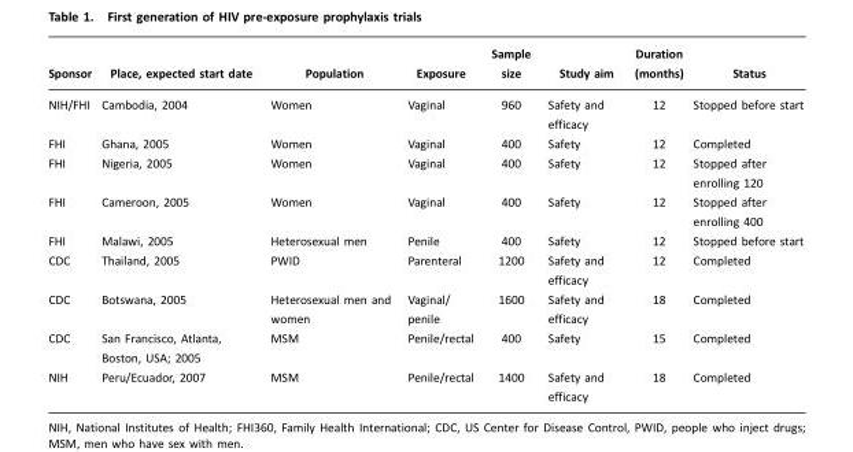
<table><thead><tr><td>Sponsor</td><td>Place, expected start date</td><td>Population</td><td>Exposure</td><td>Sample size</td><td>Study aim</td><td>Duration (months)</td><td>Status</td></tr></thead><tbody><tr><td>NIH/FHI</td><td>Cambodia, 2004</td><td>Women</td><td>Vaginal</td><td>960</td><td>Safety and efficacy</td><td>12</td><td>Stopped before start</td></tr><tr><td>FHI</td><td>Ghana, 2005</td><td>Women</td><td>Vaginal</td><td>400</td><td>Safety</td><td>12</td><td>Completed</td></tr><tr><td>FHI</td><td>Nigeria, 2005</td><td>Women</td><td>Vaginal</td><td>400</td><td>Safety</td><td>12</td><td>Stopped after enrolling 120</td></tr><tr><td>FHI</td><td>Cameroon, 2005</td><td>Women</td><td>Vaginal</td><td>400</td><td>Safety</td><td>12</td><td>Stopped after enrolling 400</td></tr><tr><td>FHI</td><td>Malawi, 2005</td><td>Heterosexual men</td><td>Penile</td><td>400</td><td>Safety</td><td>12</td><td>Stopped before start</td></tr><tr><td>CDC</td><td>Thailand, 2005</td><td>PWID</td><td>Parenteral</td><td>1200</td><td>Safety and efficacy</td><td>12</td><td>Completed</td></tr><tr><td>CDC</td><td>Botswana, 2005</td><td>Heterosexual men and women</td><td>Vaginal/ penile</td><td>1600</td><td>Safety and efficacy</td><td>18</td><td>Completed</td></tr><tr><td>CDC</td><td>San Francisco, Atlanta, Boston, USA; 2005</td><td>MSM</td><td>Penile/rectal</td><td>400</td><td>Safety</td><td>15</td><td>Completed</td></tr><tr><td>NIH</td><td>Peru/Ecuador, 2007</td><td>MSM</td><td>Penile/rectal</td><td>1400</td><td>Safety and efficacy</td><td>18</td><td>Completed</td></tr></tbody></table>